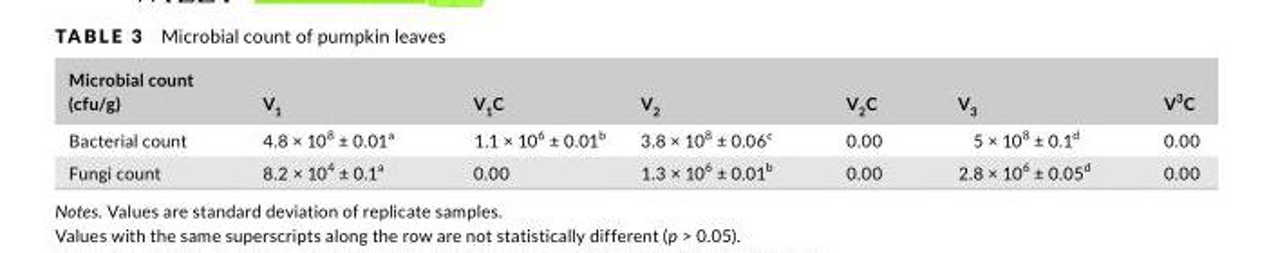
<table><thead><tr><td>Microbial count (cfu/g)</td><td>V<sub>1</sub></td><td>V<sub>1</sub>C</td><td>V<sub>2</sub></td><td>V<sub>2</sub>C</td><td>V<sub>3</sub></td><td>V<sup>3</sup>C</td></tr></thead><tbody><tr><td>Bacterial count</td><td>4.8 × 10<sup>8</sup> ± 0.01<sup>a</sup></td><td>1.1 × 10<sup>6</sup> ± 0.01<sup>b</sup></td><td>3.8 × 10<sup>8</sup> ± 0.06<sup>c</sup></td><td>0.00</td><td>5 × 10<sup>8</sup> ± 0.1<sup>d</sup></td><td>0.00</td></tr><tr><td>Fungi count</td><td>8.2 × 10<sup>4</sup> ± 0.1<sup>a</sup></td><td>0.00</td><td>1.3 × 10<sup>6</sup> ± 0.01<sup>b</sup></td><td>0.00</td><td>2.8 × 10<sup>6</sup> ± 0.05<sup>d</sup></td><td>0.00</td></tr></tbody></table>